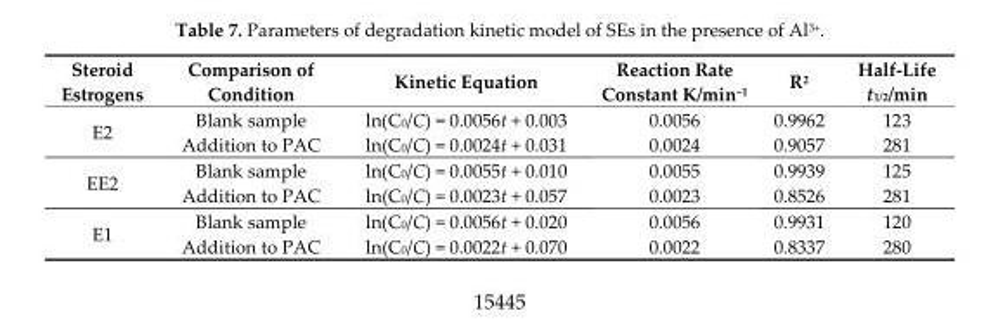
<table><thead><tr><td>Steroid Estrogens</td><td>Comparison of Condition</td><td>Kinetic Equation</td><td>Reaction Rate Constant K/min<sup>−1</sup></td><td>R<sup>2</sup></td><td>Half-Life t<sub>1/2</sub>/min</td></tr></thead><tbody><tr><td rowspan="2">E2</td><td>Blank sample</td><td>ln(C<sub>0</sub>/C) = 0.0056t + 0.003</td><td>0.0056</td><td>0.9962</td><td>123</td></tr><tr><td>Addition to PAC</td><td>ln(C<sub>0</sub>/C) = 0.0024t + 0.031</td><td>0.0024</td><td>0.9057</td><td>281</td></tr><tr><td rowspan="2">EE2</td><td>Blank sample</td><td>ln(C<sub>0</sub>/C) = 0.0055t + 0.010</td><td>0.0055</td><td>0.9939</td><td>125</td></tr><tr><td>Addition to PAC</td><td>ln(C<sub>0</sub>/C) = 0.0023t + 0.057</td><td>0.0023</td><td>0.8526</td><td>281</td></tr><tr><td rowspan="2">E1</td><td>Blank sample</td><td>ln(C<sub>0</sub>/C) = 0.0056t + 0.020</td><td>0.0056</td><td>0.9931</td><td>120</td></tr><tr><td>Addition to PAC</td><td>ln(C<sub>0</sub>/C) = 0.0022t + 0.070</td><td>0.0022</td><td>0.8337</td><td>280</td></tr></tbody></table>